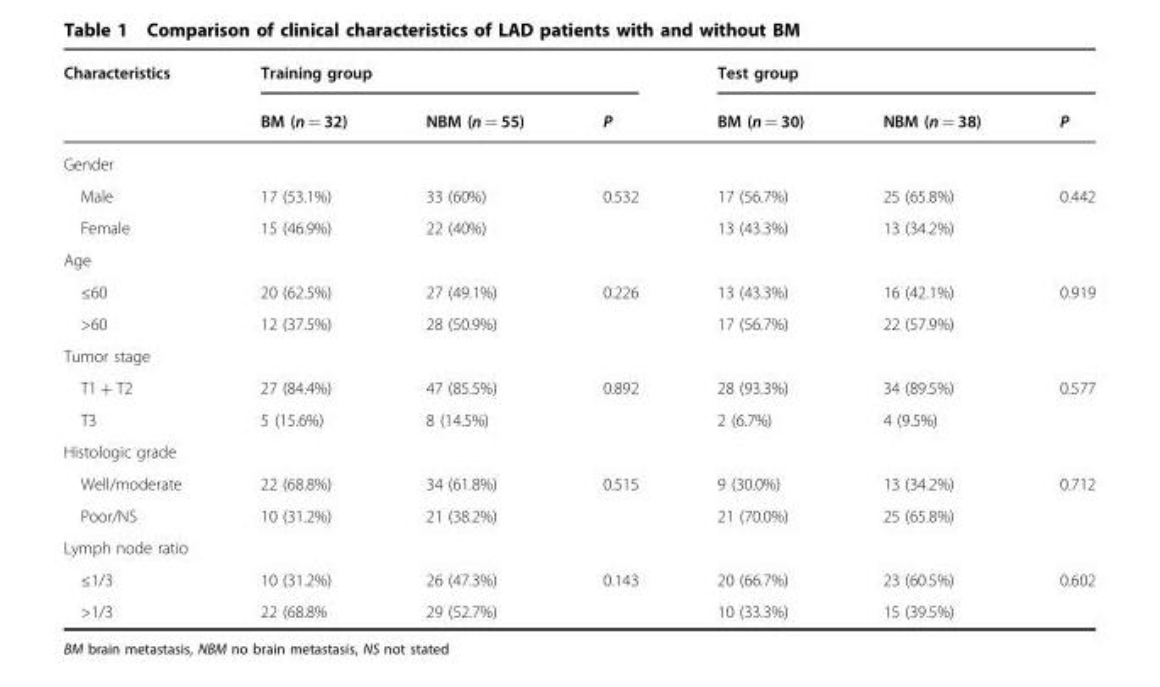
<table><thead><tr><td rowspan="2">Characteristics</td><td colspan="3">Training group</td><td colspan="3">Test group</td></tr><tr><td>BM (n = 32)</td><td>NBM (n = 55)</td><td>P</td><td>BM (n = 30)</td><td>NBM (n = 38)</td><td>P</td></tr></thead><tbody><tr><td colspan="7">Gender</td></tr><tr><td>Male</td><td>17 (53.1%)</td><td>33 (60%)</td><td rowspan="2">0.532</td><td>17 (56.7%)</td><td>25 (65.8%)</td><td rowspan="2">0.442</td></tr><tr><td>Female</td><td>15 (46.9%)</td><td>22 (40%)</td><td>13 (43.3%)</td><td>13 (34.2%)</td></tr><tr><td colspan="7">Age</td></tr><tr><td>≤60</td><td>20 (62.5%)</td><td>27 (49.1%)</td><td rowspan="2">0.226</td><td>13 (43.3%)</td><td>16 (42.1%)</td><td rowspan="2">0.919</td></tr><tr><td>&gt;60</td><td>12 (37.5%)</td><td>28 (50.9%)</td><td>17 (56.7%)</td><td>22 (57.9%)</td></tr><tr><td colspan="7">Tumor stage</td></tr><tr><td>T1 + T2</td><td>27 (84.4%)</td><td>47 (85.5%)</td><td rowspan="2">0.892</td><td>28 (93.3%)</td><td>34 (89.5%)</td><td rowspan="2">0.577</td></tr><tr><td>T3</td><td>5 (15.6%)</td><td>8 (14.5%)</td><td>2 (6.7%)</td><td>4 (9.5%)</td></tr><tr><td colspan="7">Histologic grade</td></tr><tr><td>Well/moderate</td><td>22 (68.8%)</td><td>34 (61.8%)</td><td rowspan="2">0.515</td><td>9 (30.0%)</td><td>13 (34.2%)</td><td rowspan="2">0.712</td></tr><tr><td>Poor/NS</td><td>10 (31.2%)</td><td>21 (38.2%)</td><td>21 (70.0%)</td><td>25 (65.8%)</td></tr><tr><td colspan="7">Lymph node ratio</td></tr><tr><td>≤1/3</td><td>10 (31.2%)</td><td>26 (47.3%)</td><td rowspan="2">0.143</td><td>20 (66.7%)</td><td>23 (60.5%)</td><td rowspan="2">0.602</td></tr><tr><td>&gt;1/3</td><td>22 (68.8%</td><td>29 (52.7%)</td><td>10 (33.3%)</td><td>15 (39.5%)</td></tr></tbody></table>